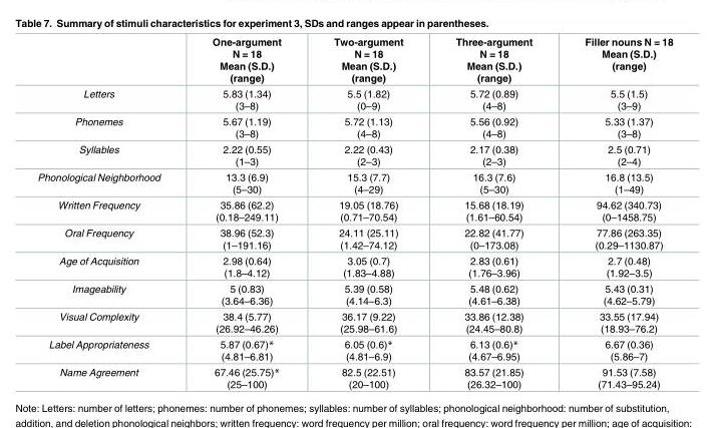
<table><thead><tr><td></td><td>One-argument N = 18 Mean (S.D.) (range)</td><td>Two-argument N = 18 Mean (S.D.) (range)</td><td>Three-argument N = 18 Mean (S.D.) (range)</td><td>Filler nouns N = 18 Mean (S.D.) (range)</td></tr></thead><tbody><tr><td>Letters</td><td>5.83 (1.34) (3–8)</td><td>5.5 (1.82) (0–9)</td><td>5.72 (0.89) (4–8)</td><td>5.5 (1.5) (3–9)</td></tr><tr><td>Phonemes</td><td>5.67 (1.19) (3–8)</td><td>5.72 (1.13) (4–8)</td><td>5.56 (0.92) (4–8)</td><td>5.33 (1.37) (3–8)</td></tr><tr><td>Syllables</td><td>2.22 (0.55) (1–3)</td><td>2.22 (0.43) (2–3)</td><td>2.17 (0.38) (2–3)</td><td>2.5 (0.71) (2–4)</td></tr><tr><td>Phonological Neighborhood</td><td>13.3 (6.9) (5–30)</td><td>15.3 (7.7) (4–29)</td><td>16.3 (7.6) (5–30)</td><td>16.8 (13.5) (1–49)</td></tr><tr><td>Written Frequency</td><td>35.86 (62.2) (0.18–249.11)</td><td>19.05 (18.76) (0.71–70.54)</td><td>15.68 (18.19) (1.61–60.54)</td><td>94.62 (340.73) (0–1458.75)</td></tr><tr><td>Oral Frequency</td><td>38.96 (52.3) (1–191.16)</td><td>24.11 (25.11) (1.42–74.12)</td><td>22.82 (41.77) (0–173.08)</td><td>77.86 (263.35) (0.29–1130.87)</td></tr><tr><td>Age of Acquisition</td><td>2.98 (0.64) (1.8–4.12)</td><td>3.05 (0.7) (1.83–4.88)</td><td>2.83 (0.61) (1.76–3.96)</td><td>2.7 (0.48) (1.92–3.5)</td></tr><tr><td>Imageability</td><td>5 (0.83) (3.64–6.36)</td><td>5.39 (0.58) (4.14–6.3)</td><td>5.48 (0.62) (4.61–6.38)</td><td>5.43 (0.31) (4.62–5.79)</td></tr><tr><td>Visual Complexity</td><td>38.4 (5.77) (26.92–46.26)</td><td>36.17 (9.22) (25.98–61.6)</td><td>33.86 (12.38) (24.45–80.8)</td><td>33.55 (17.94) (18.93–76.2)</td></tr><tr><td>Label Appropriateness</td><td>5.87 (0.67)* (4.81–6.81)</td><td>6.05 (0.6)* (4.81–6.9)</td><td>6.13 (0.6)* (4.67–6.95)</td><td>6.67 (0.36) (5.86–7)</td></tr><tr><td>Name Agreement</td><td>67.46 (25.75)* (25–100)</td><td>82.5 (22.51) (20–100)</td><td>83.57 (21.85) (26.32–100)</td><td>91.53 (7.58) (71.43–95.24)</td></tr></tbody></table>